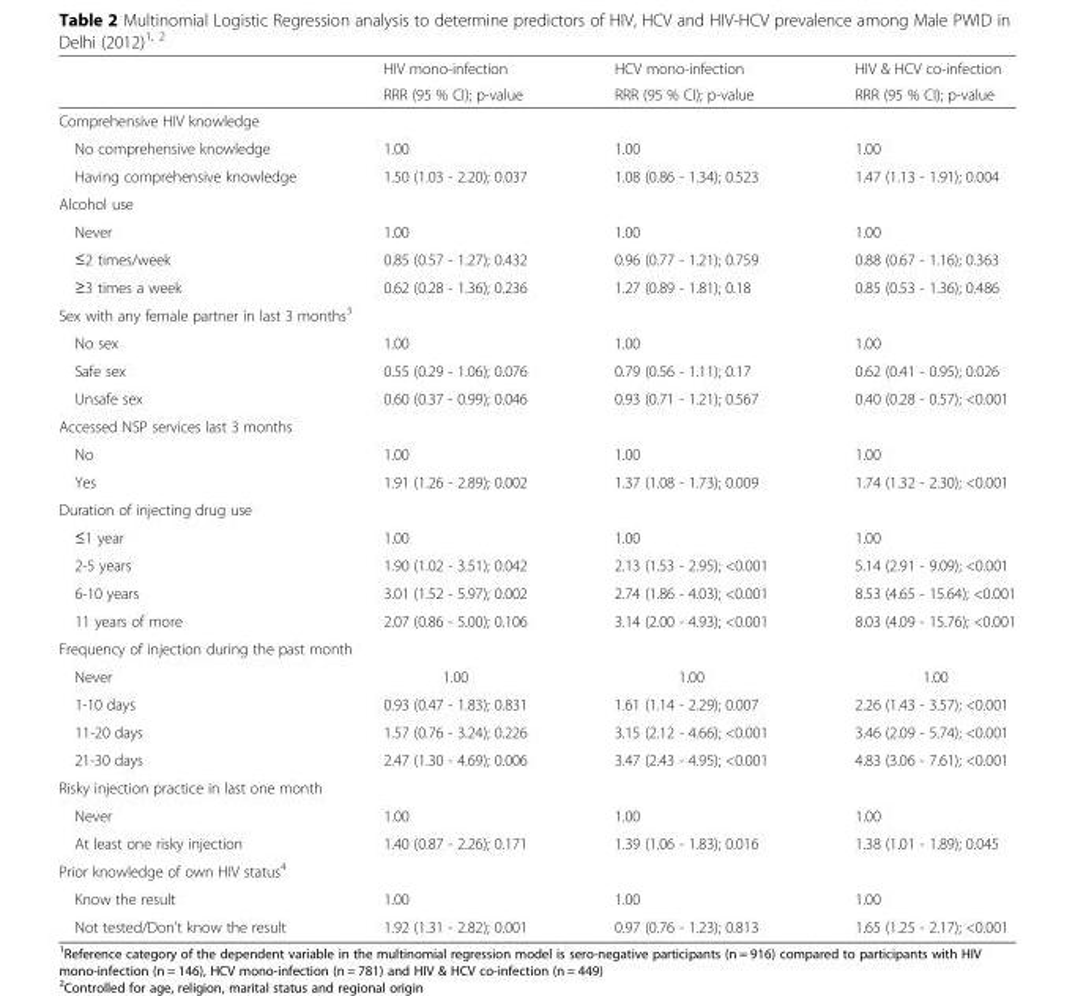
<table><thead><tr><td rowspan="2"></td><td rowspan="2">HIV mono-infection RRR (95 % CI); p-value</td><td rowspan="2">HCV mono-infection RRR (95 % CI); p-value</td><td rowspan="2">HIV &amp; HCV co-infection RRR (95 % CI); p-value</td></tr><tr></tr></thead><tbody><tr><td colspan="4">Comprehensive HIV knowledge</td></tr><tr><td>No comprehensive knowledge</td><td>1.00</td><td>1.00</td><td>1.00</td></tr><tr><td>Having comprehensive knowledge</td><td>1.50 (1.03 - 2.20); 0.037</td><td>1.08 (0.86 - 1.34); 0.523</td><td>1.47 (1.13 - 1.91); 0.004</td></tr><tr><td colspan="4">Alcohol use</td></tr><tr><td>Never</td><td>1.00</td><td>1.00</td><td>1.00</td></tr><tr><td>≤2 times/week</td><td>0.85 (0.57 - 1.27); 0.432</td><td>0.96 (0.77 - 1.21); 0.759</td><td>0.88 (0.67 - 1.16); 0.363</td></tr><tr><td>≥3 times a week</td><td>0.62 (0.28 - 1.36); 0.236</td><td>1.27 (0.89 - 1.81); 0.18</td><td>0.85 (0.53 - 1.36); 0.486</td></tr><tr><td colspan="4">Sex with any female partner in last 3 months<sup>3</sup></td></tr><tr><td>No sex</td><td>1.00</td><td>1.00</td><td>1.00</td></tr><tr><td>Safe sex</td><td>0.55 (0.29 - 1.06); 0.076</td><td>0.79 (0.56 - 1.11); 0.17</td><td>0.62 (0.41 - 0.95); 0.026</td></tr><tr><td>Unsafe sex</td><td>0.60 (0.37 - 0.99); 0.046</td><td>0.93 (0.71 - 1.21); 0.567</td><td>0.40 (0.28 - 0.57); &lt;0.001</td></tr><tr><td colspan="4">Accessed NSP services last 3 months</td></tr><tr><td>No</td><td>1.00</td><td>1.00</td><td>1.00</td></tr><tr><td>Yes</td><td>1.91 (1.26 - 2.89); 0.002</td><td>1.37 (1.08 - 1.73); 0.009</td><td>1.74 (1.32 - 2.30); &lt;0.001</td></tr><tr><td colspan="4">Duration of injecting drug use</td></tr><tr><td>≤1 year</td><td>1.00</td><td>1.00</td><td>1.00</td></tr><tr><td>2-5 years</td><td>1.90 (1.02 - 3.51); 0.042</td><td>2.13 (1.53 - 2.95); &lt;0.001</td><td>5.14 (2.91 - 9.09); &lt;0.001</td></tr><tr><td>6-10 years</td><td>3.01 (1.52 - 5.97); 0.002</td><td>2.74 (1.86 - 4.03); &lt;0.001</td><td>8.53 (4.65 - 15.64); &lt;0.001</td></tr><tr><td>11 years of more</td><td>2.07 (0.86 - 5.00); 0.106</td><td>3.14 (2.00 - 4.93); &lt;0.001</td><td>8.03 (4.09 - 15.76); &lt;0.001</td></tr><tr><td colspan="4">Frequency of injection during the past month</td></tr><tr><td>Never</td><td>1.00</td><td>1.00</td><td>1.00</td></tr><tr><td>1-10 days</td><td>0.93 (0.47 - 1.83); 0.831</td><td>1.61 (1.14 - 2.29); 0.007</td><td>2.26 (1.43 - 3.57); &lt;0.001</td></tr><tr><td>11-20 days</td><td>1.57 (0.76 - 3.24); 0.226</td><td>3.15 (2.12 - 4.66); &lt;0.001</td><td>3.46 (2.09 - 5.74); &lt;0.001</td></tr><tr><td>21-30 days</td><td>2.47 (1.30 - 4.69); 0.006</td><td>3.47 (2.43 - 4.95); &lt;0.001</td><td>4.83 (3.06 - 7.61); &lt;0.001</td></tr><tr><td colspan="4">Risky injection practice in last one month</td></tr><tr><td>Never</td><td>1.00</td><td>1.00</td><td>1.00</td></tr><tr><td>At least one risky injection</td><td>1.40 (0.87 - 2.26); 0.171</td><td>1.39 (1.06 - 1.83); 0.016</td><td>1.38 (1.01 - 1.89); 0.045</td></tr><tr><td colspan="4">Prior knowledge of own HIV status<sup>4</sup></td></tr><tr><td>Know the result</td><td>1.00</td><td>1.00</td><td>1.00</td></tr><tr><td>Not tested/Don&#x27;t know the result</td><td>1.92 (1.31 - 2.82); 0.001</td><td>0.97 (0.76 - 1.23); 0.813</td><td>1.65 (1.25 - 2.17); &lt;0.001</td></tr></tbody></table>